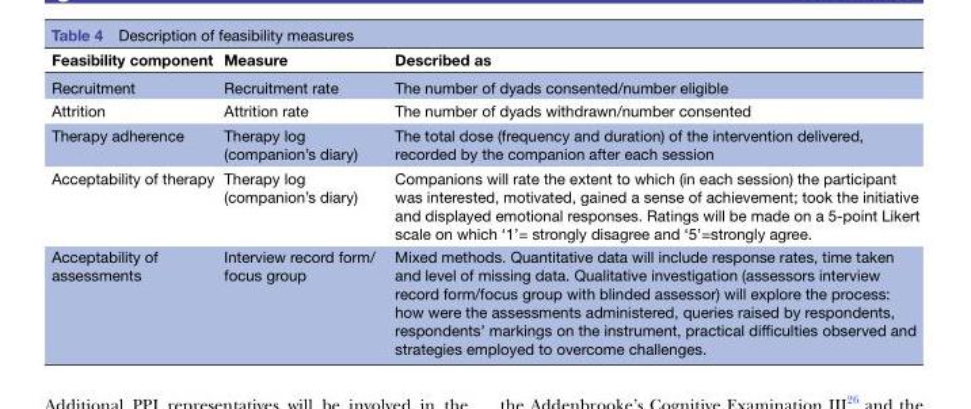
<table><thead><tr><td>Feasibility component</td><td>Measure</td><td>Described as</td></tr></thead><tbody><tr><td>Recruitment</td><td>Recruitment rate</td><td>The number of dyads consented/number eligible</td></tr><tr><td>Attrition</td><td>Attrition rate</td><td>The number of dyads withdrawn/number consented</td></tr><tr><td>Therapy adherence</td><td>Therapy log (companion’s diary)</td><td>The total dose (frequency and duration) of the intervention delivered, recorded by the companion after each session</td></tr><tr><td>Acceptability of therapy</td><td>Therapy log (companion’s diary)</td><td>Companions will rate the extent to which (in each session) the participant was interested, motivated, gained a sense of achievement; took the initiative and displayed emotional responses. Ratings will be made on a 5-point Likert scale on which ‘1’= strongly disagree and ‘5’=strongly agree.</td></tr><tr><td>Acceptability of assessments</td><td>Interview record form/ focus group</td><td>Mixed methods. Quantitative data will include response rates, time taken and level of missing data. Qualitative investigation (assessors interview record form/focus group with blinded assessor) will explore the process: how were the assessments administered, queries raised by respondents, respondents’ markings on the instrument, practical difficulties observed and strategies employed to overcome challenges.</td></tr></tbody></table>